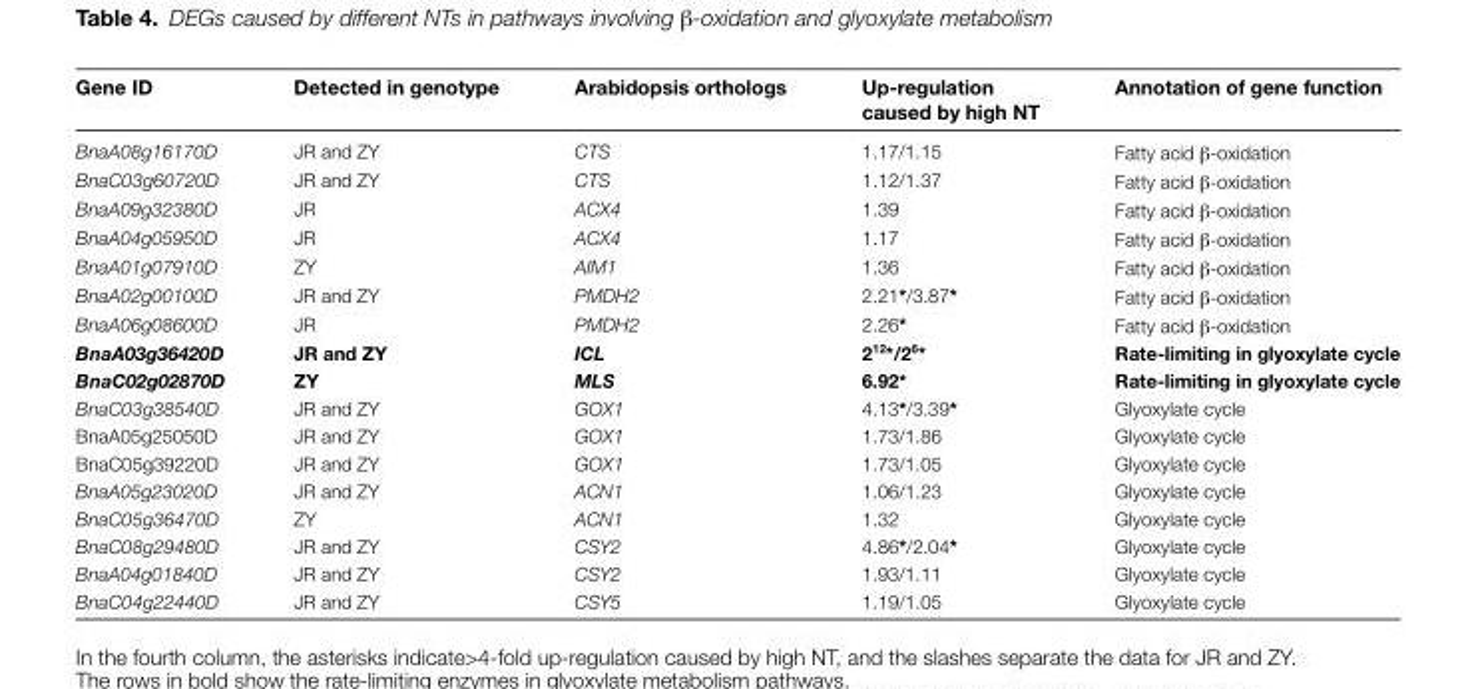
<table><thead><tr><td>Gene ID</td><td>Detected in genotype</td><td>Arabidopsis orthologs</td><td>Up-regulation caused by high NT</td><td>Annotation of gene function</td></tr></thead><tbody><tr><td>BnaA08g16170D</td><td>JR and ZY</td><td>CTS</td><td>1.17/1.15</td><td>Fatty acid β-oxidation</td></tr><tr><td>BnaC03g60720D</td><td>JR and ZY</td><td>CTS</td><td>1.12/1.37</td><td>Fatty acid β-oxidation</td></tr><tr><td>BnaA09g32380D</td><td>JR</td><td>ACX4</td><td>1.39</td><td>Fatty acid β-oxidation</td></tr><tr><td>BnaA04g05950D</td><td>JR</td><td>ACX4</td><td>1.17</td><td>Fatty acid β-oxidation</td></tr><tr><td>BnaA01g07910D</td><td>ZY</td><td>AIM1</td><td>1.36</td><td>Fatty acid β-oxidation</td></tr><tr><td>BnaA02g00100D</td><td>JR and ZY</td><td>PMDH2</td><td>2.21*/3.87*</td><td>Fatty acid β-oxidation</td></tr><tr><td>BnaA06g08600D</td><td>JR</td><td>PMDH2</td><td>2.26*</td><td>Fatty acid β-oxidation</td></tr><tr><td>BnaA03g36420D</td><td>JR and ZY</td><td>ICL</td><td>2<sup>12</sup>*/2<sup>6</sup>*</td><td>Rate-limiting in glyoxylate cycle</td></tr><tr><td>BnaC02g02870D</td><td>ZY</td><td>MLS</td><td>6.92*</td><td>Rate-limiting in glyoxylate cycle</td></tr><tr><td>BnaC03g38540D</td><td>JR and ZY</td><td>GOX1</td><td>4.13*/3.39*</td><td>Glyoxylate cycle</td></tr><tr><td>BnaA05g25050D</td><td>JR and ZY</td><td>GOX1</td><td>1.73/1.86</td><td>Glyoxylate cycle</td></tr><tr><td>BnaC05g39220D</td><td>JR and ZY</td><td>GOX1</td><td>1.73/1.05</td><td>Glyoxylate cycle</td></tr><tr><td>BnaA05g23020D</td><td>JR and ZY</td><td>ACN1</td><td>1.06/1.23</td><td>Glyoxylate cycle</td></tr><tr><td>BnaC05g36470D</td><td>ZY</td><td>ACN1</td><td>1.32</td><td>Glyoxylate cycle</td></tr><tr><td>BnaC08g29480D</td><td>JR and ZY</td><td>CSY2</td><td>4.86*/2.04*</td><td>Glyoxylate cycle</td></tr><tr><td>BnaA04g01840D</td><td>JR and ZY</td><td>CSY2</td><td>1.93/1.11</td><td>Glyoxylate cycle</td></tr><tr><td>BnaC04g22440D</td><td>JR and ZY</td><td>CSY5</td><td>1.19/1.05</td><td>Glyoxylate cycle</td></tr></tbody></table>